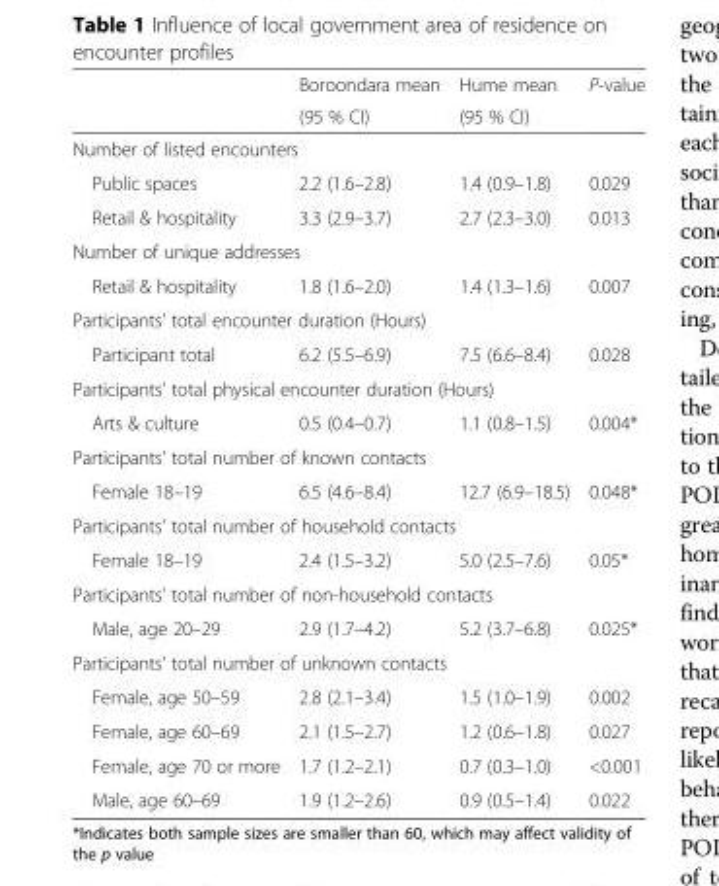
<table><thead><tr><td rowspan="2"></td><td rowspan="2">Boroondara mean (95 % CI)</td><td rowspan="2">Hume mean (95 % CI)</td><td rowspan="2">P-value</td></tr><tr></tr></thead><tbody><tr><td colspan="4">Number of listed encounters</td></tr><tr><td>Public spaces</td><td>2.2 (1.6–2.8)</td><td>1.4 (0.9–1.8)</td><td>0.029</td></tr><tr><td>Retail &amp; hospitality</td><td>3.3 (2.9–3.7)</td><td>2.7 (2.3–3.0)</td><td>0.013</td></tr><tr><td colspan="4">Number of unique addresses</td></tr><tr><td>Retail &amp; hospitality</td><td>1.8 (1.6–2.0)</td><td>1.4 (1.3–1.6)</td><td>0.007</td></tr><tr><td colspan="4">Participants’ total encounter duration (Hours)</td></tr><tr><td>Participant total</td><td>6.2 (5.5–6.9)</td><td>7.5 (6.6–8.4)</td><td>0.028</td></tr><tr><td colspan="4">Participants&#x27; total physical encounter duration (Hours)</td></tr><tr><td>Arts &amp; culture</td><td>0.5 (0.4–0.7)</td><td>1.1 (0.8–1.5)</td><td>0.004*</td></tr><tr><td colspan="4">Participants&#x27; total number of known contacts</td></tr><tr><td>Female 18–19</td><td>6.5 (4.6–8.4)</td><td>12.7 (6.9–18.5)</td><td>0.048*</td></tr><tr><td colspan="4">Participants&#x27; total number of household contacts</td></tr><tr><td>Female 18–19</td><td>2.4 (1.5–3.2)</td><td>5.0 (2.5–7.6)</td><td>0.05*</td></tr><tr><td colspan="4">Participants&#x27; total number of non-household contacts</td></tr><tr><td>Male, age 20–29</td><td>2.9 (1.7–4.2)</td><td>5.2 (3.7–6.8)</td><td>0.025*</td></tr><tr><td colspan="4">Participants&#x27; total number of unknown contacts</td></tr><tr><td>Female, age 50–59</td><td>2.8 (2.1–3.4)</td><td>1.5 (1.0–1.9)</td><td>0.002</td></tr><tr><td>Female, age 60–69</td><td>2.1 (1.5–2.7)</td><td>1.2 (0.6–1.8)</td><td>0.027</td></tr><tr><td>Female, age 70 or more</td><td>1.7 (1.2–2.1)</td><td>0.7 (0.3–1.0)</td><td>&lt;0.001</td></tr><tr><td>Male, age 60–69</td><td>1.9 (1.2–2.6)</td><td>0.9 (0.5–1.4)</td><td>0.022</td></tr></tbody></table>